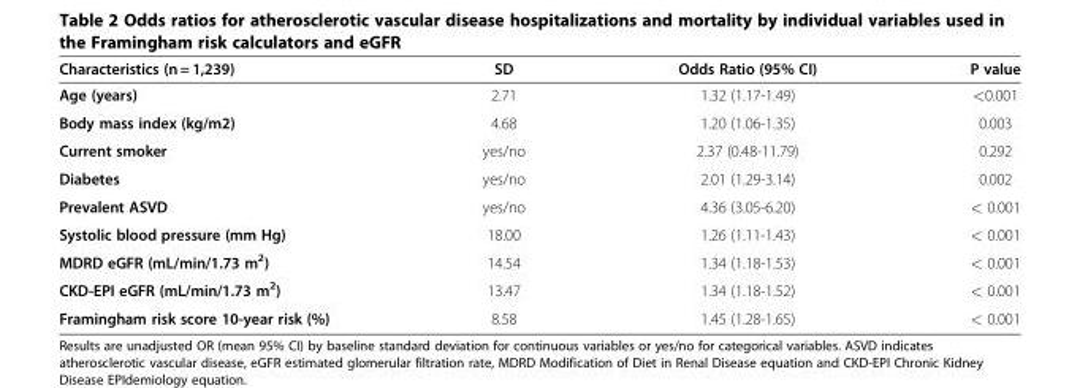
<table><thead><tr><td>Characteristics (n = 1,239)</td><td>SD</td><td>Odds Ratio (95% CI)</td><td>P value</td></tr></thead><tbody><tr><td>Age (years)</td><td>2.71</td><td>1.32 (1.17-1.49)</td><td>&lt;0.001</td></tr><tr><td>Body mass index (kg/m2)</td><td>4.68</td><td>1.20 (1.06-1.35)</td><td>0.003</td></tr><tr><td>Current smoker</td><td>yes/no</td><td>2.37 (0.48-11.79)</td><td>0.292</td></tr><tr><td>Diabetes</td><td>yes/no</td><td>2.01 (1.29-3.14)</td><td>0.002</td></tr><tr><td>Prevalent ASVD</td><td>yes/no</td><td>4.36 (3.05-6.20)</td><td>&lt; 0.001</td></tr><tr><td>Systolic blood pressure (mm Hg)</td><td>18.00</td><td>1.26 (1.11-1.43)</td><td>&lt; 0.001</td></tr><tr><td>MDRD eGFR (mL/min/1.73 m<sup>2</sup>)</td><td>14.54</td><td>1.34 (1.18-1.53)</td><td>&lt; 0.001</td></tr><tr><td>CKD-EPI eGFR (mL/min/1.73 m<sup>2</sup>)</td><td>13.47</td><td>1.34 (1.18-1.52)</td><td>&lt; 0.001</td></tr><tr><td>Framingham risk score 10-year risk (%)</td><td>8.58</td><td>1.45 (1.28-1.65)</td><td>&lt; 0.001</td></tr></tbody></table>